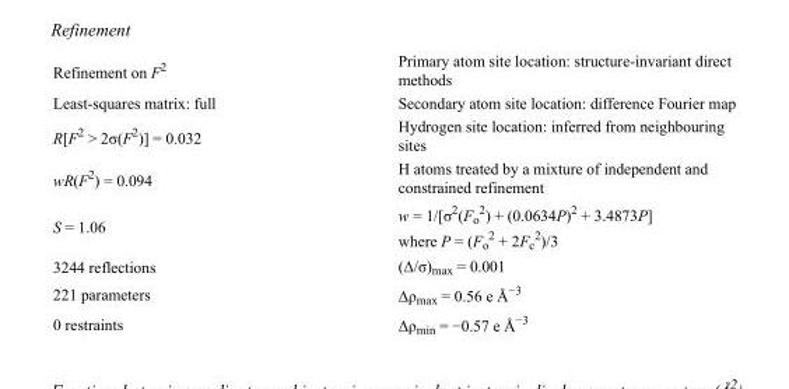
<table><tbody><tr><td>Refinement on F<sup>2</sup></td><td>Primary atom site location: structure-invariant direct methods</td></tr><tr><td>Least-squares matrix: full</td><td>Secondary atom site location: difference Fourier map</td></tr><tr><td>R[F<sup>2</sup> &gt; 2σ(F<sup>2</sup>)] = 0.032</td><td>Hydrogen site location: inferred from neighbouring sites</td></tr><tr><td>wR(F<sup>2</sup>) = 0.094</td><td>H atoms treated by a mixture of independent and constrained refinement</td></tr><tr><td>S = 1.06</td><td>w = 1/[σ<sup>2</sup>(F<sub>o</sub> <sup>2</sup>) + (0.0634P)<sup>2</sup> + 3.4873P] where P = (F<sub>o</sub> <sup>2</sup> + 2F<sub>c</sub> <sup>2</sup>)/3</td></tr><tr><td>3244 reflections</td><td>(Δ/σ)<sub>max</sub> = 0.001</td></tr><tr><td>221 parameters</td><td>Δρ<sub>max</sub> = 0.56 e Å<sup>−3</sup></td></tr><tr><td>0 restraints</td><td>Δρ<sub>min</sub> = −0.57 e Å<sup>−3</sup></td></tr></tbody></table>